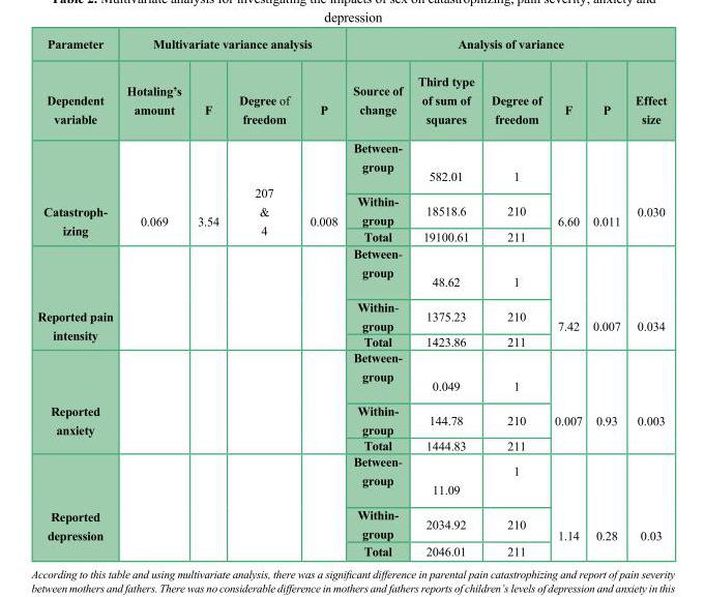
<table><thead><tr><td rowspan="2">Parameter Dependent variable</td><td colspan="4">Multivariate variance analysis</td><td colspan="6">Analysis of variance</td></tr><tr><td>Hotaling’s amount</td><td>F</td><td>Degree of freedom</td><td>P</td><td>Source of change</td><td>Third type of sum of squares</td><td>Degree of freedom</td><td>F</td><td>P</td><td>Effect size</td></tr></thead><tbody><tr><td rowspan="3">Catastroph- izing</td><td rowspan="3">0.069</td><td rowspan="3">3.54</td><td rowspan="3">207 &amp; 4</td><td rowspan="3">0.008</td><td>Between- group</td><td>582.01</td><td>1</td><td rowspan="3">6.60</td><td rowspan="3">0.011</td><td rowspan="3">0.030</td></tr><tr><td>Within- group</td><td>18518.6</td><td>210</td></tr><tr><td>Total</td><td>19100.61</td><td>211</td></tr><tr><td rowspan="3">Reported pain intensity</td><td rowspan="3"></td><td rowspan="3"></td><td rowspan="3"></td><td rowspan="3"></td><td>Between- group</td><td>48.62</td><td>1</td><td rowspan="3">7.42</td><td rowspan="3">0.007</td><td rowspan="3">0.034</td></tr><tr><td>Within- group</td><td>1375.23</td><td>210</td></tr><tr><td>Total</td><td>1423.86</td><td>211</td></tr><tr><td rowspan="3">Reported anxiety</td><td rowspan="3"></td><td rowspan="3"></td><td rowspan="3"></td><td rowspan="3"></td><td>Between- group</td><td>0.049</td><td>1</td><td rowspan="3">0.007</td><td rowspan="3">0.93</td><td rowspan="3">0.003</td></tr><tr><td>Within- group</td><td>144.78</td><td>210</td></tr><tr><td>Total</td><td>1444.83</td><td>211</td></tr><tr><td rowspan="3">Reported depression</td><td rowspan="3"></td><td rowspan="3"></td><td rowspan="3"></td><td rowspan="3"></td><td>Between- group</td><td>11.09</td><td>1</td><td rowspan="3">1.14</td><td rowspan="3">0.28</td><td rowspan="3">0.03</td></tr><tr><td>Within- group</td><td>2034.92</td><td>210</td></tr><tr><td>Total</td><td>2046.01</td><td>211</td></tr></tbody></table>